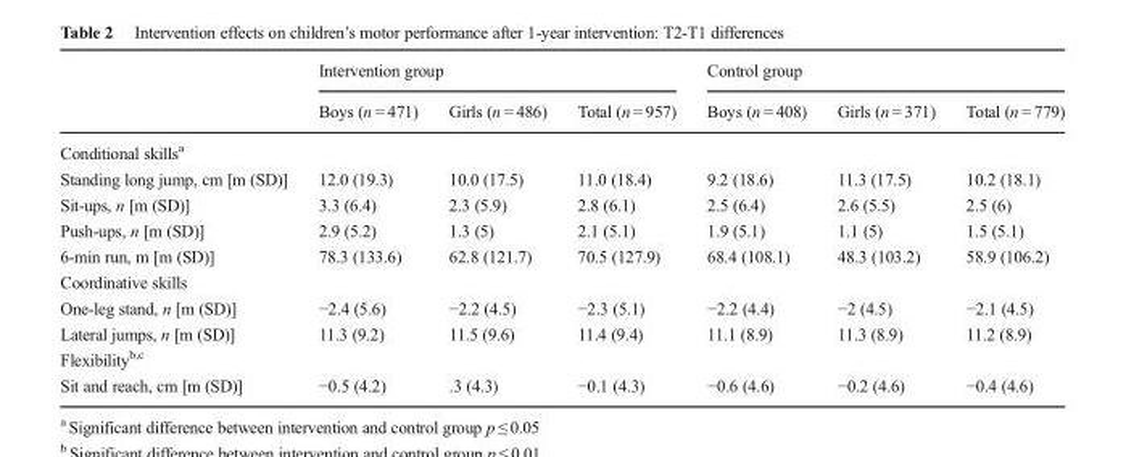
<table><thead><tr><td rowspan="2"></td><td colspan="3">Intervention group</td><td colspan="3">Control group</td></tr><tr><td>Boys (n = 471)</td><td>Girls (n = 486)</td><td>Total (n = 957)</td><td>Boys (n = 408)</td><td>Girls (n = 371)</td><td>Total (n = 779)</td></tr></thead><tbody><tr><td colspan="7">Conditional skills<sup>a</sup></td></tr><tr><td>Standing long jump, cm [m (SD)]</td><td>12.0 (19.3)</td><td>10.0 (17.5)</td><td>11.0 (18.4)</td><td>9.2 (18.6)</td><td>11.3 (17.5)</td><td>10.2 (18.1)</td></tr><tr><td>Sit-ups, n [m (SD)]</td><td>3.3 (6.4)</td><td>2.3 (5.9)</td><td>2.8 (6.1)</td><td>2.5 (6.4)</td><td>2.6 (5.5)</td><td>2.5 (6)</td></tr><tr><td>Push-ups, n [m (SD)]</td><td>2.9 (5.2)</td><td>1.3 (5)</td><td>2.1 (5.1)</td><td>1.9 (5.1)</td><td>1.1 (5)</td><td>1.5 (5.1)</td></tr><tr><td>6-min run, m [m (SD)]</td><td>78.3 (133.6)</td><td>62.8 (121.7)</td><td>70.5 (127.9)</td><td>68.4 (108.1)</td><td>48.3 (103.2)</td><td>58.9 (106.2)</td></tr><tr><td colspan="7">Coordinative skills</td></tr><tr><td>One-leg stand, n [m (SD)]</td><td>−2.4 (5.6)</td><td>−2.2 (4.5)</td><td>−2.3 (5.1)</td><td>−2.2 (4.4)</td><td>−2 (4.5)</td><td>−2.1 (4.5)</td></tr><tr><td>Lateral jumps, n [m (SD)]</td><td>11.3 (9.2)</td><td>11.5 (9.6)</td><td>11.4 (9.4)</td><td>11.1 (8.9)</td><td>11.3 (8.9)</td><td>11.2 (8.9)</td></tr><tr><td colspan="7">Flexibility<sup>b,c</sup></td></tr><tr><td>Sit and reach, cm [m (SD)]</td><td>−0.5 (4.2)</td><td>.3 (4.3)</td><td>−0.1 (4.3)</td><td>−0.6 (4.6)</td><td>−0.2 (4.6)</td><td>−0.4 (4.6)</td></tr></tbody></table>